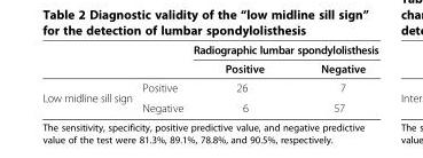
<table><thead><tr><td rowspan="2"></td><td rowspan="2"></td><td colspan="2">Radiographic lumbar spondylolisthesis</td></tr><tr><td>Positive</td><td>Negative</td></tr></thead><tbody><tr><td rowspan="2">Low midline sill sign</td><td>Positive</td><td>26</td><td>7</td></tr><tr><td>Negative</td><td>6</td><td>57</td></tr></tbody></table>